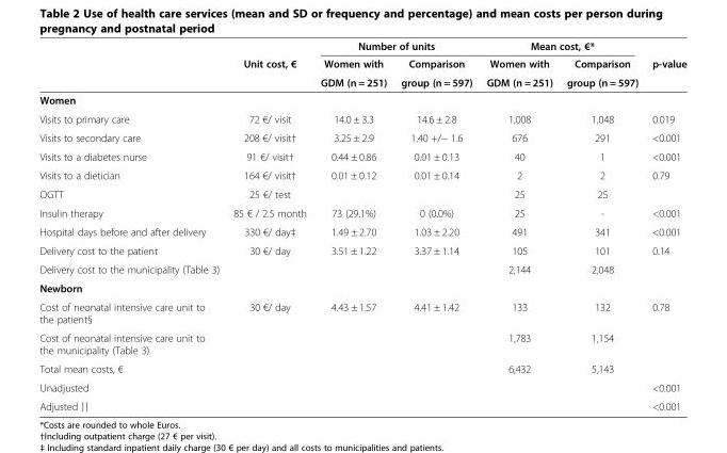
<table><thead><tr><td rowspan="3"></td><td rowspan="3">Unit cost, €</td><td colspan="2">Number of units</td><td colspan="2">Mean cost, €*</td><td rowspan="3">p-value</td></tr><tr><td rowspan="2">Women with GDM (n = 251)</td><td rowspan="2">Comparison group (n = 597)</td><td rowspan="2">Women with GDM (n = 251)</td><td rowspan="2">Comparison group (n = 597)</td></tr><tr></tr></thead><tbody><tr><td colspan="7">Women</td></tr><tr><td>Visits to primary care</td><td>72 €/ visit</td><td>14.0 ± 3.3</td><td>14.6 ± 2.8</td><td>1,008</td><td>1,048</td><td>0.019</td></tr><tr><td>Visits to secondary care</td><td>208 €/ visit†</td><td>3.25 ± 2.9</td><td>1.40 +/− 1.6</td><td>676</td><td>291</td><td>&lt;0.001</td></tr><tr><td>Visits to a diabetes nurse</td><td>91 €/ visit†</td><td>0.44 ± 0.86</td><td>0.01 ± 0.13</td><td>40</td><td>1</td><td>&lt;0.001</td></tr><tr><td>Visits to a dietician</td><td>164 €/ visit†</td><td>0.01 ± 0.12</td><td>0.01 ± 0.14</td><td>2</td><td>2</td><td>0.79</td></tr><tr><td>OGTT</td><td>25 €/ test</td><td></td><td></td><td>25</td><td>25</td><td></td></tr><tr><td>Insulin therapy</td><td>85 € / 2.5 month</td><td>73 (29.1%)</td><td>0 (0.0%)</td><td>25</td><td>-</td><td>&lt;0.001</td></tr><tr><td>Hospital days before and after delivery</td><td>330 €/ day‡</td><td>1.49 ± 2.70</td><td>1.03 ± 2.20</td><td>491</td><td>341</td><td>&lt;0.001</td></tr><tr><td>Delivery cost to the patient</td><td>30 €/ day</td><td>3.51 ± 1.22</td><td>3.37 ± 1.14</td><td>105</td><td>101</td><td>0.14</td></tr><tr><td>Delivery cost to the municipality (Table 3)</td><td></td><td></td><td></td><td>2,144</td><td>2,048</td><td></td></tr><tr><td colspan="7">Newborn</td></tr><tr><td>Cost of neonatal intensive care unit to the patient§</td><td>30 €/ day</td><td>4.43 ± 1.57</td><td>4.41 ± 1.42</td><td>133</td><td>132</td><td>0.78</td></tr><tr><td>Cost of neonatal intensive care unit to the municipality (Table 3)</td><td></td><td></td><td></td><td>1,783</td><td>1,154</td><td></td></tr><tr><td>Total mean costs, €</td><td></td><td></td><td></td><td>6,432</td><td>5,143</td><td></td></tr><tr><td>Unadjusted</td><td></td><td></td><td></td><td></td><td></td><td>&lt;0.001</td></tr><tr><td>Adjusted ∣∣</td><td></td><td></td><td></td><td></td><td></td><td>&lt;0.001</td></tr></tbody></table>